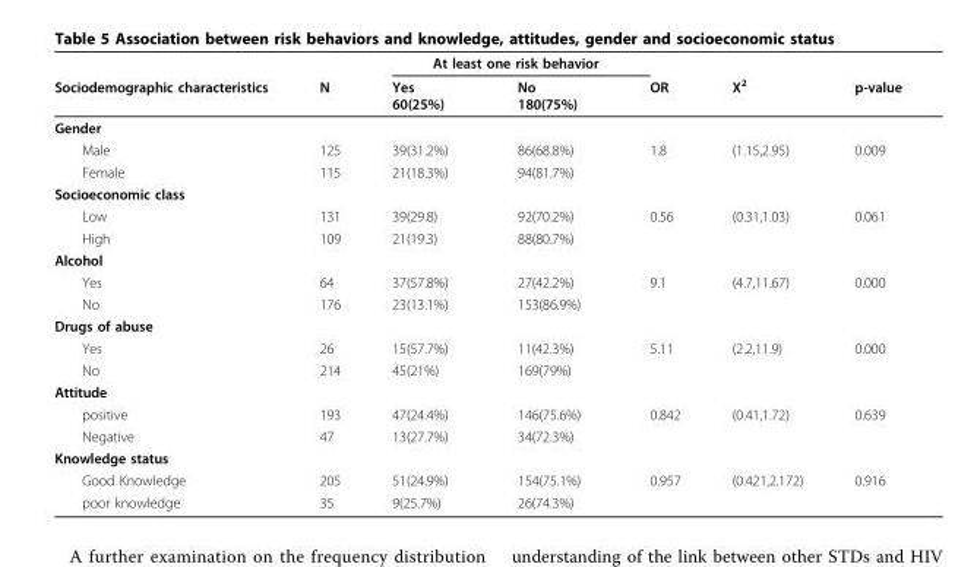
<table><thead><tr><td rowspan="2">Sociodemographic characteristics</td><td rowspan="2">N</td><td colspan="2">At least one risk behavior</td><td rowspan="2">OR</td><td rowspan="2">Χ<sup>2</sup></td><td rowspan="2">p-value</td></tr><tr><td>Yes 60(25%)</td><td>No 180(75%)</td></tr></thead><tbody><tr><td colspan="7">Gender</td></tr><tr><td>Male</td><td>125</td><td>39(31.2%)</td><td>86(68.8%)</td><td>1.8</td><td>(1.15,2.95)</td><td>0.009</td></tr><tr><td>Female</td><td>115</td><td>21(18.3%)</td><td>94(81.7%)</td><td></td><td></td><td></td></tr><tr><td colspan="7">Socioeconomic class</td></tr><tr><td>Low</td><td>131</td><td>39(29.8)</td><td>92(70.2%)</td><td>0.56</td><td>(0.31,1.03)</td><td>0.061</td></tr><tr><td>High</td><td>109</td><td>21(19.3)</td><td>88(80.7%)</td><td></td><td></td><td></td></tr><tr><td colspan="7">Alcohol</td></tr><tr><td>Yes</td><td>64</td><td>37(57.8%)</td><td>27(42.2%)</td><td>9.1</td><td>(4.7,11.67)</td><td>0.000</td></tr><tr><td>No</td><td>176</td><td>23(13.1%)</td><td>153(86.9%)</td><td></td><td></td><td></td></tr><tr><td colspan="7">Drugs of abuse</td></tr><tr><td>Yes</td><td>26</td><td>15(57.7%)</td><td>11(42.3%)</td><td>5.11</td><td>(2.2,11.9)</td><td>0.000</td></tr><tr><td>No</td><td>214</td><td>45(21%)</td><td>169(79%)</td><td></td><td></td><td></td></tr><tr><td colspan="7">Attitude</td></tr><tr><td>positive</td><td>193</td><td>47(24.4%)</td><td>146(75.6%)</td><td>0.842</td><td>(0.41,1.72)</td><td>0.639</td></tr><tr><td>Negative</td><td>47</td><td>13(27.7%)</td><td>34(72.3%)</td><td></td><td></td><td></td></tr><tr><td colspan="7">Knowledge status</td></tr><tr><td>Good Knowledge</td><td>205</td><td>51(24.9%)</td><td>154(75.1%)</td><td>0.957</td><td>(0.421,2.172)</td><td>0.916</td></tr><tr><td>poor knowledge</td><td>35</td><td>9(25.7%)</td><td>26(74.3%)</td><td></td><td></td><td></td></tr></tbody></table>